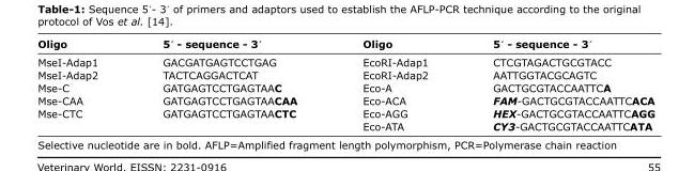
<table><thead><tr><td>Oligo</td><td>5´ - sequence - 3´</td><td>Oligo</td><td>5´ - sequence - 3´</td></tr></thead><tbody><tr><td>MseI-Adap1</td><td>GACGATGAGTCCTGAG</td><td>EcoRI-Adap1</td><td>CTCGTAGACTGCGTACC</td></tr><tr><td>MseI-Adap2</td><td>TACTCAGGACTCAT</td><td>EcoRI-Adap2</td><td>AATTGGTACGCAGTC</td></tr><tr><td>Mse-C</td><td>GATGAGTCCTGAGTAAC</td><td>Eco-A</td><td>GACTGCGTACCAATTCA</td></tr><tr><td>Mse-CAA</td><td>GATGAGTCCTGAGTAACAA</td><td>Eco-ACA</td><td>FAM-GACTGCGTACCAATTCACA</td></tr><tr><td rowspan="2">Mse-CTC</td><td>GATGAGTCCTGAGTAACTC</td><td>Eco-AGG</td><td>HEX-GACTGCGTACCAATTCAGG</td></tr><tr><td></td><td>Eco-ATA</td><td>CY3-GACTGCGTACCAATTCATA</td></tr></tbody></table>